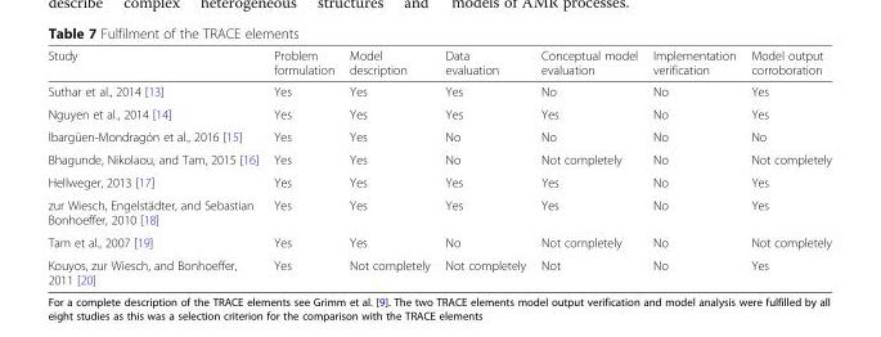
<table><thead><tr><td>Study</td><td>Problem formulation</td><td>Model description</td><td>Data evaluation</td><td>Conceptual model evaluation</td><td>Implementation verification</td><td>Model output corroboration</td></tr></thead><tbody><tr><td>Suthar et al., 2014 [13]</td><td>Yes</td><td>Yes</td><td>Yes</td><td>No</td><td>No</td><td>Yes</td></tr><tr><td>Nguyen et al., 2014 [14]</td><td>Yes</td><td>Yes</td><td>Yes</td><td>Yes</td><td>No</td><td>Yes</td></tr><tr><td>Ibargüen-Mondragón et al., 2016 [15]</td><td>Yes</td><td>Yes</td><td>No</td><td>No</td><td>No</td><td>No</td></tr><tr><td>Bhagunde, Nikolaou, and Tam, 2015 [16]</td><td>Yes</td><td>Yes</td><td>No</td><td>Not completely</td><td>No</td><td>Not completely</td></tr><tr><td>Hellweger, 2013 [17]</td><td>Yes</td><td>Yes</td><td>Yes</td><td>Yes</td><td>No</td><td>Yes</td></tr><tr><td>zur Wiesch, Engelstädter, and Sebastian Bonhoeffer, 2010 [18]</td><td>Yes</td><td>Yes</td><td>Yes</td><td>Yes</td><td>No</td><td>Yes</td></tr><tr><td>Tam et al., 2007 [19]</td><td>Yes</td><td>Yes</td><td>No</td><td>Not completely</td><td>No</td><td>Not completely</td></tr><tr><td>Kouyos, zur Wiesch, and Bonhoeffer, 2011 [20]</td><td>Yes</td><td>Not completely</td><td>Not completely</td><td>Not</td><td>No</td><td>Yes</td></tr></tbody></table>